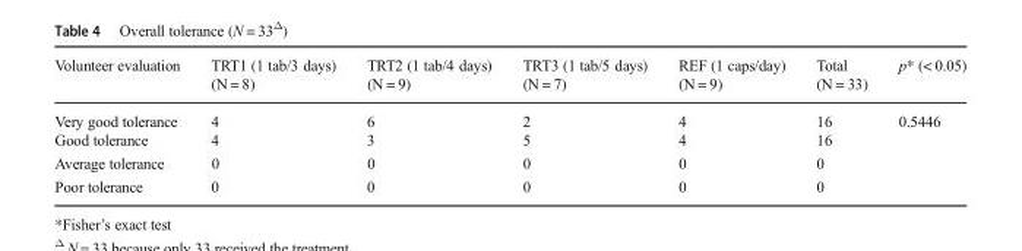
<table><thead><tr><td>Volunteer evaluation</td><td>TRT1 (1 tab/3 days) (N = 8)</td><td>TRT2 (1 tab/4 days) (N = 9)</td><td>TRT3 (1 tab/5 days) (N = 7)</td><td>REF (1 caps/day) (N = 9)</td><td>Total (N = 33)</td><td>p* (&lt; 0.05)</td></tr></thead><tbody><tr><td>Very good tolerance</td><td>4</td><td>6</td><td>2</td><td>4</td><td>16</td><td rowspan="4">0.5446</td></tr><tr><td>Good tolerance</td><td>4</td><td>3</td><td>5</td><td>4</td><td>16</td></tr><tr><td>Average tolerance</td><td>0</td><td>0</td><td>0</td><td>0</td><td>0</td></tr><tr><td>Poor tolerance</td><td>0</td><td>0</td><td>0</td><td>0</td><td>0</td></tr></tbody></table>